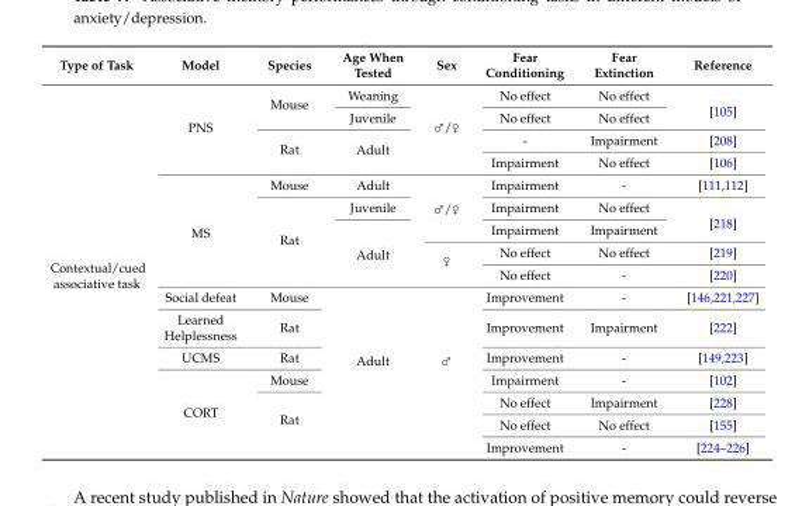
<table><thead><tr><td>Type of Task</td><td>Model</td><td>Species</td><td>Age When Tested</td><td>Sex</td><td>Fear Conditioning</td><td>Fear Extinction</td><td>Reference</td></tr></thead><tbody><tr><td rowspan="16">Contextual/cued associative task</td><td rowspan="4">PNS</td><td rowspan="2">Mouse</td><td>Weaning</td><td rowspan="4">♂/♀</td><td>No effect</td><td>No effect</td><td rowspan="2">[105]</td></tr><tr><td>Juvenile</td><td>No effect</td><td>No effect</td></tr><tr><td rowspan="2">Rat</td><td rowspan="2">Adult</td><td>-</td><td>Impairment</td><td>[208]</td></tr><tr><td>Impairment</td><td>No effect</td><td>[106]</td></tr><tr><td rowspan="5">MS</td><td>Mouse</td><td>Adult</td><td rowspan="3">♂/♀</td><td>Impairment</td><td>-</td><td>[111,112]</td></tr><tr><td rowspan="4">Rat</td><td>Juvenile</td><td>Impairment</td><td>No effect</td><td rowspan="2">[218]</td></tr><tr><td rowspan="3">Adult</td><td>Impairment</td><td>Impairment</td></tr><tr><td rowspan="2">♀</td><td>No effect</td><td>No effect</td><td>[219]</td></tr><tr><td>No effect</td><td>-</td><td>[220]</td></tr><tr><td>Social defeat</td><td>Mouse</td><td rowspan="7">Adult</td><td rowspan="7">♂</td><td>Improvement</td><td>-</td><td>[146,221,227]</td></tr><tr><td>Learned Helplessness</td><td>Rat</td><td>Improvement</td><td>Impairment</td><td>[222]</td></tr><tr><td>UCMS</td><td>Rat</td><td>Improvement</td><td>-</td><td>[149,223]</td></tr><tr><td rowspan="4">CORT</td><td>Mouse</td><td>Impairment</td><td>-</td><td>[102]</td></tr><tr><td rowspan="3">Rat</td><td>No effect</td><td>Impairment</td><td>[228]</td></tr><tr><td>No effect</td><td>No effect</td><td>[155]</td></tr><tr><td>Improvement</td><td>-</td><td>[224–226]</td></tr></tbody></table>